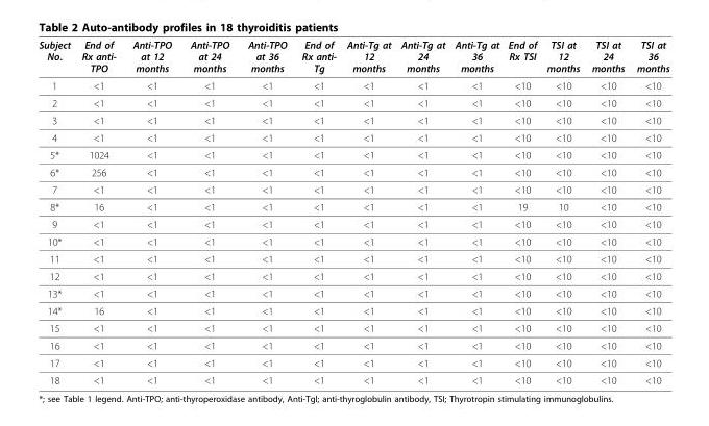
<table><tbody><tr><td>Subject No.</td><td>End of Rx anti- TPO</td><td>Anti-TPO at 12 months</td><td>Anti-TPO at 24 months</td><td>Anti-TPO at 36 months</td><td>End of Rx anti- Tg</td><td>Anti-Tg at 12 months</td><td>Anti-Tg at 24 months</td><td>Anti-Tg at 36 months</td><td>End of Rx TSI</td><td>TSI at 12 months</td><td>TSI at 24 months</td><td>TSI at 36 months</td></tr><tr><td>1</td><td>&lt;1</td><td>&lt;1</td><td>&lt;1</td><td>&lt;1</td><td>&lt;1</td><td>&lt;1</td><td>&lt;1</td><td>&lt;1</td><td>&lt;10</td><td>&lt;10</td><td>&lt;10</td><td>&lt;10</td></tr><tr><td>2</td><td>&lt;1</td><td>&lt;1</td><td>&lt;1</td><td>&lt;1</td><td>&lt;1</td><td>&lt;1</td><td>&lt;1</td><td>&lt;1</td><td>&lt;10</td><td>&lt;10</td><td>&lt;10</td><td>&lt;10</td></tr><tr><td>3</td><td>&lt;1</td><td>&lt;1</td><td>&lt;1</td><td>&lt;1</td><td>&lt;1</td><td>&lt;1</td><td>&lt;1</td><td>&lt;1</td><td>&lt;10</td><td>&lt;10</td><td>&lt;10</td><td>&lt;10</td></tr><tr><td>4</td><td>&lt;1</td><td>&lt;1</td><td>&lt;1</td><td>&lt;1</td><td>&lt;1</td><td>&lt;1</td><td>&lt;1</td><td>&lt;1</td><td>&lt;10</td><td>&lt;10</td><td>&lt;10</td><td>&lt;10</td></tr><tr><td>5*</td><td>1024</td><td>&lt;1</td><td>&lt;1</td><td>&lt;1</td><td>&lt;1</td><td>&lt;1</td><td>&lt;1</td><td>&lt;1</td><td>&lt;10</td><td>&lt;10</td><td>&lt;10</td><td>&lt;10</td></tr><tr><td>6*</td><td>256</td><td>&lt;1</td><td>&lt;1</td><td>&lt;1</td><td>&lt;1</td><td>&lt;1</td><td>&lt;1</td><td>&lt;1</td><td>&lt;10</td><td>&lt;10</td><td>&lt;10</td><td>&lt;10</td></tr><tr><td>7</td><td>&lt;1</td><td>&lt;1</td><td>&lt;1</td><td>&lt;1</td><td>&lt;1</td><td>&lt;1</td><td>&lt;1</td><td>&lt;1</td><td>&lt;10</td><td>&lt;10</td><td>&lt;10</td><td>&lt;10</td></tr><tr><td>8*</td><td>16</td><td>&lt;1</td><td>&lt;1</td><td>&lt;1</td><td>&lt;1</td><td>&lt;1</td><td>&lt;1</td><td>&lt;1</td><td>19</td><td>10</td><td>&lt;10</td><td>&lt;10</td></tr><tr><td>9</td><td>&lt;1</td><td>&lt;1</td><td>&lt;1</td><td>&lt;1</td><td>&lt;1</td><td>&lt;1</td><td>&lt;1</td><td>&lt;1</td><td>&lt;10</td><td>&lt;10</td><td>&lt;10</td><td>&lt;10</td></tr><tr><td>10*</td><td>&lt;1</td><td>&lt;1</td><td>&lt;1</td><td>&lt;1</td><td>&lt;1</td><td>&lt;1</td><td>&lt;1</td><td>&lt;1</td><td>&lt;10</td><td>&lt;10</td><td>&lt;10</td><td>&lt;10</td></tr><tr><td>11</td><td>&lt;1</td><td>&lt;1</td><td>&lt;1</td><td>&lt;1</td><td>&lt;1</td><td>&lt;1</td><td>&lt;1</td><td>&lt;1</td><td>&lt;10</td><td>&lt;10</td><td>&lt;10</td><td>&lt;10</td></tr><tr><td>12</td><td>&lt;1</td><td>&lt;1</td><td>&lt;1</td><td>&lt;1</td><td>&lt;1</td><td>&lt;1</td><td>&lt;1</td><td>&lt;1</td><td>&lt;10</td><td>&lt;10</td><td>&lt;10</td><td>&lt;10</td></tr><tr><td>13*</td><td>&lt;1</td><td>&lt;1</td><td>&lt;1</td><td>&lt;1</td><td>&lt;1</td><td>&lt;1</td><td>&lt;1</td><td>&lt;1</td><td>&lt;10</td><td>&lt;10</td><td>&lt;10</td><td>&lt;10</td></tr><tr><td>14*</td><td>16</td><td>&lt;1</td><td>&lt;1</td><td>&lt;1</td><td>&lt;1</td><td>&lt;1</td><td>&lt;1</td><td>&lt;1</td><td>&lt;10</td><td>&lt;10</td><td>&lt;10</td><td>&lt;10</td></tr><tr><td>15</td><td>&lt;1</td><td>&lt;1</td><td>&lt;1</td><td>&lt;1</td><td>&lt;1</td><td>&lt;1</td><td>&lt;1</td><td>&lt;1</td><td>&lt;10</td><td>&lt;10</td><td>&lt;10</td><td>&lt;10</td></tr><tr><td>16</td><td>&lt;1</td><td>&lt;1</td><td>&lt;1</td><td>&lt;1</td><td>&lt;1</td><td>&lt;1</td><td>&lt;1</td><td>&lt;1</td><td>&lt;10</td><td>&lt;10</td><td>&lt;10</td><td>&lt;10</td></tr><tr><td>17</td><td>&lt;1</td><td>&lt;1</td><td>&lt;1</td><td>&lt;1</td><td>&lt;1</td><td>&lt;1</td><td>&lt;1</td><td>&lt;1</td><td>&lt;10</td><td>&lt;10</td><td>&lt;10</td><td>&lt;10</td></tr><tr><td>18</td><td>&lt;1</td><td>&lt;1</td><td>&lt;1</td><td>&lt;1</td><td>&lt;1</td><td>&lt;1</td><td>&lt;1</td><td>&lt;1</td><td>&lt;10</td><td>&lt;10</td><td>&lt;10</td><td>&lt;10</td></tr></tbody></table>